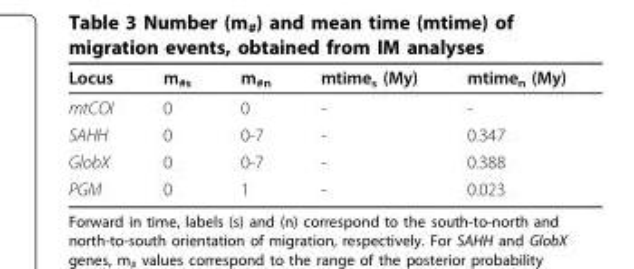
<table><thead><tr><td>Locus</td><td>m<sub>#s</sub></td><td>m<sub>#n</sub></td><td>mtime<sub>s</sub> (My)</td><td>mtime<sub>n</sub> (My)</td></tr></thead><tbody><tr><td>mtCOI</td><td>0</td><td>0</td><td>-</td><td>-</td></tr><tr><td>SAHH</td><td>0</td><td>0-7</td><td>-</td><td>0.347</td></tr><tr><td>GlobX</td><td>0</td><td>0-7</td><td>-</td><td>0.388</td></tr><tr><td>PGM</td><td>0</td><td>1</td><td>-</td><td>0.023</td></tr></tbody></table>